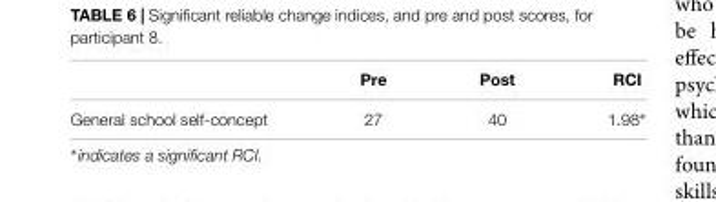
<table><thead><tr><td></td><td>Pre</td><td>Post</td><td>RCI</td></tr></thead><tbody><tr><td>General school self-concept</td><td>27</td><td>40</td><td>1.98∗</td></tr></tbody></table>